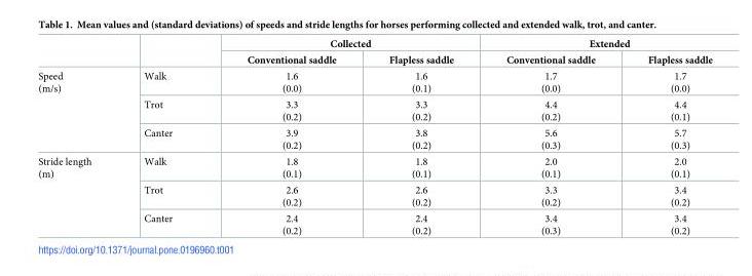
<table><thead><tr><td rowspan="2"></td><td rowspan="2"></td><td colspan="2">Collected</td><td colspan="2">Extended</td></tr><tr><td>Conventional saddle</td><td>Flapless saddle</td><td>Conventional saddle</td><td>Flapless saddle</td></tr></thead><tbody><tr><td rowspan="3">Speed (m/s)</td><td>Walk</td><td>1.6 (0.0)</td><td>1.6 (0.1)</td><td>1.7 (0.0)</td><td>1.7 (0.0)</td></tr><tr><td>Trot</td><td>3.3 (0.2)</td><td>3.3 (0.2)</td><td>4.4 (0.2)</td><td>4.4 (0.1)</td></tr><tr><td>Canter</td><td>3.9 (0.2)</td><td>3.8 (0.2)</td><td>5.6 (0.3)</td><td>5.7 (0.3)</td></tr><tr><td rowspan="3">Stride length (m)</td><td>Walk</td><td>1.8 (0.1)</td><td>1.8 (0.1)</td><td>2.0 (0.1)</td><td>2.0 (0.1)</td></tr><tr><td>Trot</td><td>2.6 (0.2)</td><td>2.6 (0.2)</td><td>3.3 (0.2)</td><td>3.4 (0.2)</td></tr><tr><td>Canter</td><td>2.4 (0.2)</td><td>2.4 (0.2)</td><td>3.4 (0.3)</td><td>3.4 (0.2)</td></tr></tbody></table>